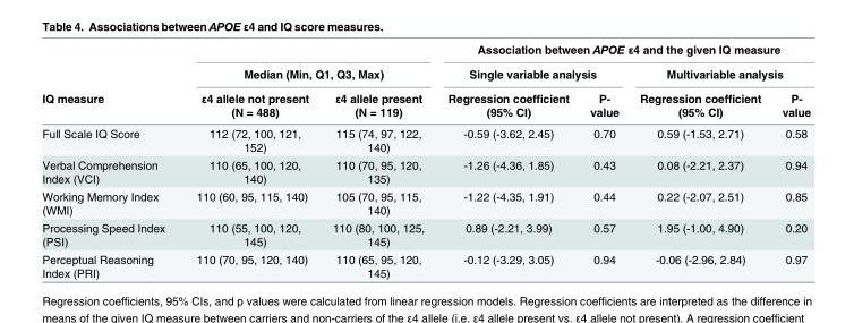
<table><thead><tr><td rowspan="3">IQ measure</td><td></td><td></td><td colspan="4">Association between APOE ε4 and the given IQ measure</td></tr><tr><td colspan="2">Median (Min, Q1, Q3, Max)</td><td colspan="2">Single variable analysis</td><td colspan="2">Multivariable analysis</td></tr><tr><td>ε4 allele not present (N = 488)</td><td>ε4 allele present (N = 119)</td><td>Regression coefficient (95% CI)</td><td>P- value</td><td>Regression coefficient (95% CI)</td><td>P- value</td></tr></thead><tbody><tr><td>Full Scale IQ Score</td><td>112 (72, 100, 121, 152)</td><td>115 (74, 97, 122, 140)</td><td>-0.59 (-3.62, 2.45)</td><td>0.70</td><td>0.59 (-1.53, 2.71)</td><td>0.58</td></tr><tr><td>Verbal Comprehension Index (VCI)</td><td>110 (65, 100, 120, 140)</td><td>110 (70, 95, 120, 135)</td><td>-1.26 (-4.36, 1.85)</td><td>0.43</td><td>0.08 (-2.21, 2.37)</td><td>0.94</td></tr><tr><td>Working Memory Index (WMI)</td><td>110 (60, 95, 115, 140)</td><td>105 (70, 95, 115, 140)</td><td>-1.22 (-4.35, 1.91)</td><td>0.44</td><td>0.22 (-2.07, 2.51)</td><td>0.85</td></tr><tr><td>Processing Speed Index (PSI)</td><td>110 (55, 100, 120, 145)</td><td>110 (80, 100, 125, 145)</td><td>0.89 (-2.21, 3.99)</td><td>0.57</td><td>1.95 (-1.00, 4.90)</td><td>0.20</td></tr><tr><td>Perceptual Reasoning Index (PRI)</td><td>110 (70, 95, 120, 140)</td><td>110 (65, 95, 120, 145)</td><td>-0.12 (-3.29, 3.05)</td><td>0.94</td><td>-0.06 (-2.96, 2.84)</td><td>0.97</td></tr></tbody></table>